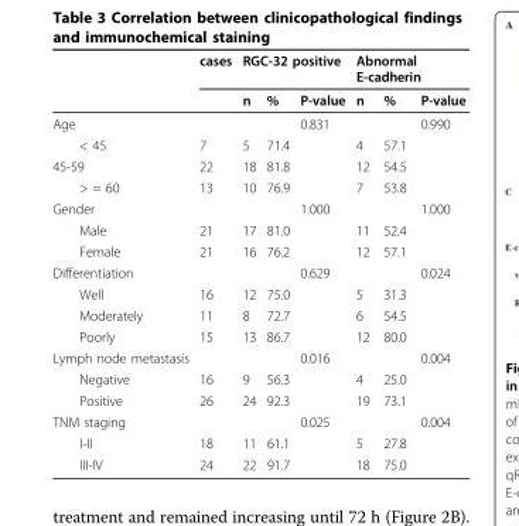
<table><thead><tr><td rowspan="2"></td><td rowspan="2">cases</td><td colspan="3">RGC-32 positive</td><td colspan="3">Abnormal E-cadherin</td></tr><tr><td>n</td><td>%</td><td>P-value</td><td>n</td><td>%</td><td>P-value</td></tr></thead><tbody><tr><td>Age</td><td></td><td></td><td></td><td>0.831</td><td></td><td></td><td>0.990</td></tr><tr><td>&lt; 45</td><td>7</td><td>5</td><td>71.4</td><td></td><td>4</td><td>57.1</td><td></td></tr><tr><td>45-59</td><td>22</td><td>18</td><td>81.8</td><td></td><td>12</td><td>54.5</td><td></td></tr><tr><td>&gt; = 60</td><td>13</td><td>10</td><td>76.9</td><td></td><td>7</td><td>53.8</td><td></td></tr><tr><td>Gender</td><td></td><td></td><td></td><td>1.000</td><td></td><td></td><td>1.000</td></tr><tr><td>Male</td><td>21</td><td>17</td><td>81.0</td><td></td><td>11</td><td>52.4</td><td></td></tr><tr><td>Female</td><td>21</td><td>16</td><td>76.2</td><td></td><td>12</td><td>57.1</td><td></td></tr><tr><td>Differentiation</td><td></td><td></td><td></td><td>0.629</td><td></td><td></td><td>0.024</td></tr><tr><td>Well</td><td>16</td><td>12</td><td>75.0</td><td></td><td>5</td><td>31.3</td><td></td></tr><tr><td>Moderately</td><td>11</td><td>8</td><td>72.7</td><td></td><td>6</td><td>54.5</td><td></td></tr><tr><td>Poorly</td><td>15</td><td>13</td><td>86.7</td><td></td><td>12</td><td>80.0</td><td></td></tr><tr><td>Lymph node metastasis</td><td></td><td></td><td></td><td>0.016</td><td></td><td></td><td>0.004</td></tr><tr><td>Negative</td><td>16</td><td>9</td><td>56.3</td><td></td><td>4</td><td>25.0</td><td></td></tr><tr><td>Positive</td><td>26</td><td>24</td><td>92.3</td><td></td><td>19</td><td>73.1</td><td></td></tr><tr><td>TNM staging</td><td></td><td></td><td></td><td>0.025</td><td></td><td></td><td>0.004</td></tr><tr><td>I-II</td><td>18</td><td>11</td><td>61.1</td><td></td><td>5</td><td>27.8</td><td></td></tr><tr><td>III-IV</td><td>24</td><td>22</td><td>91.7</td><td></td><td>18</td><td>75.0</td><td></td></tr></tbody></table>